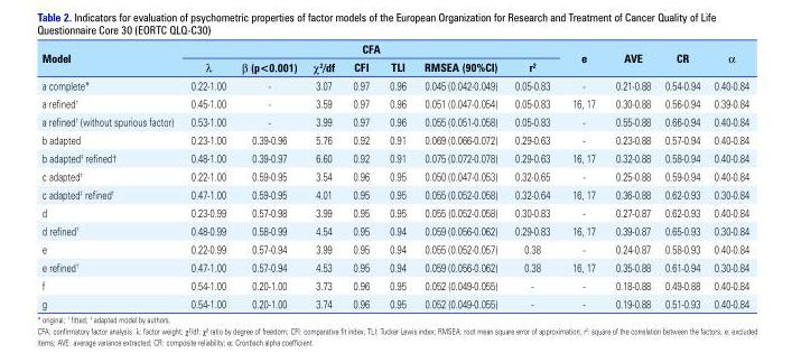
<table><thead><tr><td rowspan="2">Model</td><td colspan="7">CFA</td><td rowspan="2">e</td><td rowspan="2">AVE</td><td rowspan="2">CR</td><td rowspan="2">α</td></tr><tr><td>λ</td><td>β (p&lt;0.001)</td><td>χ<sup>2</sup>/df</td><td>CFI</td><td>TLI</td><td>RMSEA (90%CI)</td><td>r<sup>2</sup></td></tr></thead><tbody><tr><td>a complete*</td><td>0.22-1.00</td><td>-</td><td>3.07</td><td>0.97</td><td>0.96</td><td>0.045 (0.042-0.049)</td><td>0.05-0.83</td><td>-</td><td>0.21-0.88</td><td>0.54-0.94</td><td>0.40-0.84</td></tr><tr><td>a refined†</td><td>0.45-1.00</td><td>-</td><td>3.59</td><td>0.97</td><td>0.96</td><td>0.051 (0.047-0.054)</td><td>0.05-0.83</td><td>16, 17</td><td>0.30-0.88</td><td>0.56-0.94</td><td>0.39-0.84</td></tr><tr><td>a refined† (without spurious factor)</td><td>0.53-1.00</td><td>-</td><td>3.99</td><td>0.97</td><td>0.96</td><td>0.055 (0.051-0.058)</td><td>0.05-0.83</td><td>-</td><td>0.55-0.88</td><td>0.66-0.94</td><td>0.40-0.84</td></tr><tr><td>b adapted</td><td>0.23-1.00</td><td>0.39-0.96</td><td>5.76</td><td>0.92</td><td>0.91</td><td>0.069 (0.066-0.072)</td><td>0.29-0.63</td><td>-</td><td>0.23-0.88</td><td>0.57-0.94</td><td>0.40-0.84</td></tr><tr><td>b adapted‡ refined†</td><td>0.48-1.00</td><td>0.39-0.97</td><td>6.60</td><td>0.92</td><td>0.91</td><td>0.075 (0.072-0.078)</td><td>0.29-0.63</td><td>16, 17</td><td>0.32-0.88</td><td>0.58-0.94</td><td>0.40-0.84</td></tr><tr><td>c adapted‡</td><td>0.22-1.00</td><td>0.59-0.95</td><td>3.54</td><td>0.96</td><td>0.95</td><td>0.050 (0.047-0.053)</td><td>0.32-0.65</td><td>-</td><td>0.25-0.88</td><td>0.59-0.94</td><td>0.40-0.84</td></tr><tr><td>c adapted‡ refined†</td><td>0.47-1.00</td><td>0.59-0.95</td><td>4.01</td><td>0.95</td><td>0.95</td><td>0.055 (0.052-0.058)</td><td>0.32-0.64</td><td>16, 17</td><td>0.36-0.88</td><td>0.62-0.93</td><td>0.30-0.84</td></tr><tr><td>d</td><td>0.23-0.99</td><td>0.57-0.98</td><td>3.99</td><td>0.95</td><td>0.95</td><td>0.055 (0.052-0.058)</td><td>0.30-0.83</td><td>-</td><td>0.27-0.87</td><td>0.62-0.93</td><td>0.40-0.84</td></tr><tr><td>d refined†</td><td>0.48-0.99</td><td>0.58-0.99</td><td>4.54</td><td>0.95</td><td>0.94</td><td>0.059 (0.056-0.062)</td><td>0.29-0.83</td><td>16, 17</td><td>0.39-0.87</td><td>0.65-0.93</td><td>0.30-0.84</td></tr><tr><td>e</td><td>0.22-0.99</td><td>0.57-0.94</td><td>3.99</td><td>0.95</td><td>0.94</td><td>0.055 (0.052-0.057)</td><td>0.38</td><td>-</td><td>0.24-0.87</td><td>0.58-0.93</td><td>0.40-0.84</td></tr><tr><td>e refined†</td><td>0.47-1.00</td><td>0.57-0.94</td><td>4.53</td><td>0.95</td><td>0.94</td><td>0.059 (0.056-0.062)</td><td>0.38</td><td>16, 17</td><td>0.35-0.88</td><td>0.61-0.94</td><td>0.30-0.84</td></tr><tr><td>f</td><td>0.54-1.00</td><td>0.20-1.00</td><td>3.73</td><td>0.96</td><td>0.95</td><td>0.052 (0.049-0.055)</td><td>-</td><td>-</td><td>0.18-0.88</td><td>0.49-0.88</td><td>0.40-0.84</td></tr><tr><td>g</td><td>0.54-1.00</td><td>0.20-1.00</td><td>3.74</td><td>0.96</td><td>0.95</td><td>0.052 (0.049-0.055)</td><td>-</td><td>-</td><td>0.19-0.88</td><td>0.51-0.93</td><td>0.40-0.84</td></tr></tbody></table>